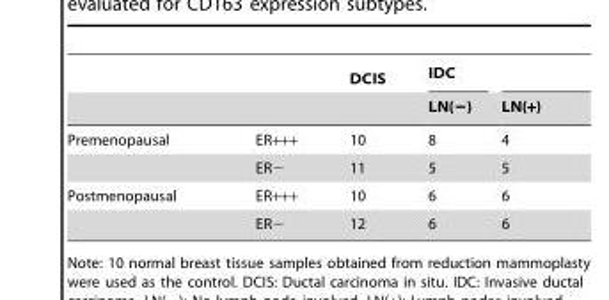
<table><thead><tr><td rowspan="2"></td><td rowspan="2"></td><td rowspan="2">DCIS</td><td rowspan="2">IDC LN(−)</td><td rowspan="2">LN(+)</td></tr><tr></tr></thead><tbody><tr><td rowspan="2">Premenopausal</td><td>ER+++</td><td>10</td><td>8</td><td>4</td></tr><tr><td>ER−</td><td>11</td><td>5</td><td>5</td></tr><tr><td rowspan="2">Postmenopausal</td><td>ER+++</td><td>10</td><td>6</td><td>6</td></tr><tr><td>ER−</td><td>12</td><td>6</td><td>6</td></tr></tbody></table>